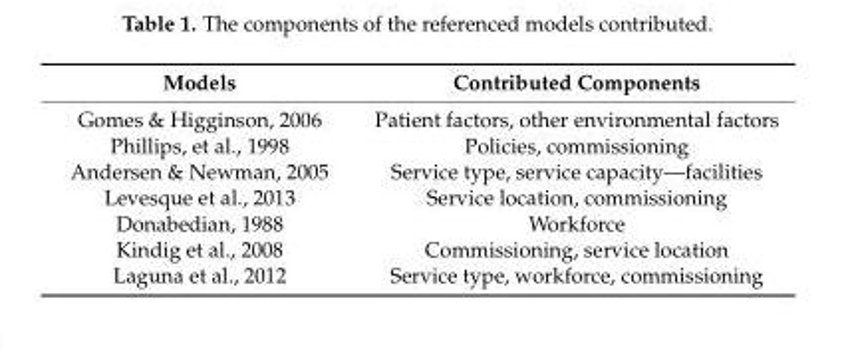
<table><thead><tr><td>Models</td><td>Contributed Components</td></tr></thead><tbody><tr><td>Gomes &amp; Higginson, 2006</td><td>Patient factors, other environmental factors</td></tr><tr><td>Phillips, et al., 1998</td><td>Policies, commissioning</td></tr><tr><td>Andersen &amp; Newman, 2005</td><td>Service type, service capacity—facilities</td></tr><tr><td>Levesque et al., 2013</td><td>Service location, commissioning</td></tr><tr><td>Donabedian, 1988</td><td>Workforce</td></tr><tr><td>Kindig et al., 2008</td><td>Commissioning, service location</td></tr><tr><td>Laguna et al., 2012</td><td>Service type, workforce, commissioning</td></tr></tbody></table>